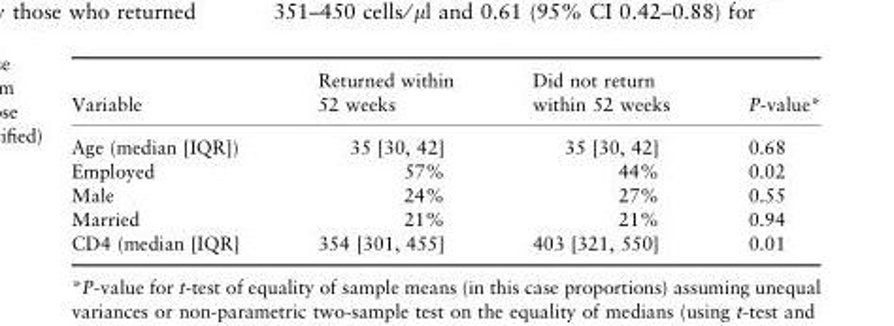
<table><thead><tr><td>Variable</td><td>Returned within 52 weeks</td><td>Did not return within 52 weeks</td><td>P-value*</td></tr></thead><tbody><tr><td>Age (median [IQR])</td><td>35 [30, 42]</td><td>35 [30, 42]</td><td>0.68</td></tr><tr><td>Employed</td><td>57%</td><td>44%</td><td>0.02</td></tr><tr><td>Male</td><td>24%</td><td>27%</td><td>0.55</td></tr><tr><td>Married</td><td>21%</td><td>21%</td><td>0.94</td></tr><tr><td>CD4 (median [IQR]</td><td>354 [301, 455]</td><td>403 [321, 550]</td><td>0.01</td></tr></tbody></table>